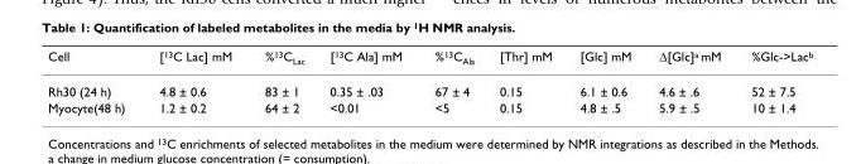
<table><thead><tr><td>Cell</td><td>[<sup>13</sup>C Lac] mM</td><td>%<sup>13</sup>C<sub>Lac</sub></td><td>[<sup>13</sup>C Ala] mM</td><td>%<sup>13</sup>C<sub>Ala</sub></td><td>[Thr] mM</td><td>[Glc] mM</td><td>Δ[Glc]<sup>a</sup> mM</td><td>%Glc-&gt;Lac<sup>b</sup></td></tr></thead><tbody><tr><td>Rh30 (24 h)</td><td>4.8 ± 0.6</td><td>83 ± 1</td><td>0.35 ± .03</td><td>67 ± 4</td><td>0.15</td><td>6.1 ± 0.6</td><td>4.6 ± .6</td><td>52 ± 7.5</td></tr><tr><td>Myocyte(48 h)</td><td>1.2 ± 0.2</td><td>64 ± 2</td><td>&lt;0.01</td><td>&lt;5</td><td>0.15</td><td>4.8 ± .5</td><td>5.9 ± .5</td><td>10 ± 1.4</td></tr></tbody></table>